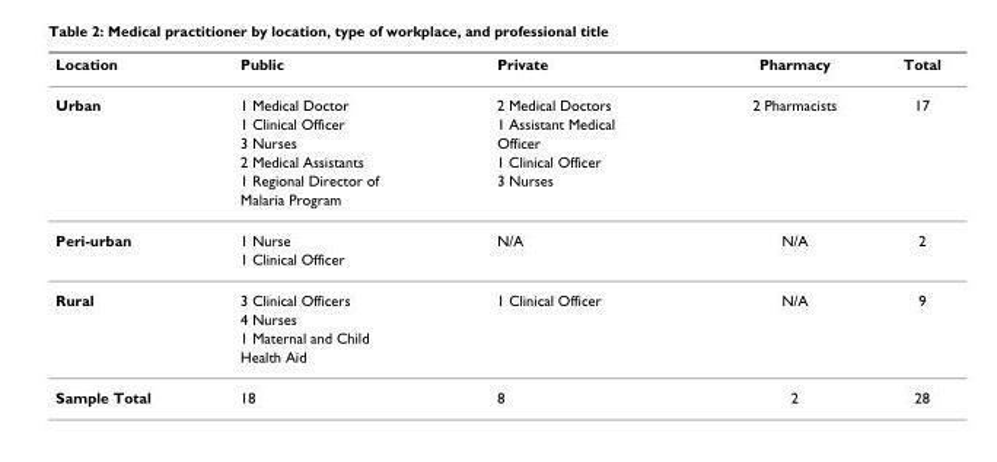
<table><thead><tr><td>Location</td><td>Public</td><td>Private</td><td>Pharmacy</td><td>Total</td></tr></thead><tbody><tr><td rowspan="6">Urban</td><td>1 Medical Doctor</td><td>2 Medical Doctors</td><td>2 Pharmacists</td><td>17</td></tr><tr><td>1 Clinical Officer</td><td>1 Assistant Medical</td><td></td><td></td></tr><tr><td>3 Nurses</td><td>Officer</td><td></td><td></td></tr><tr><td>2 Medical Assistants</td><td>1 Clinical Officer</td><td></td><td></td></tr><tr><td>1 Regional Director of</td><td>3 Nurses</td><td></td><td></td></tr><tr><td>Malaria Program</td><td></td><td></td><td></td></tr><tr><td rowspan="2">Peri-urban</td><td>1 Nurse</td><td>N/A</td><td>N/A</td><td>2</td></tr><tr><td>1 Clinical Officer</td><td></td><td></td><td></td></tr><tr><td rowspan="4">Rural</td><td>3 Clinical Officers</td><td>1 Clinical Officer</td><td>N/A</td><td>9</td></tr><tr><td>4 Nurses</td><td></td><td></td><td></td></tr><tr><td>1 Maternal and Child</td><td></td><td></td><td></td></tr><tr><td>Health Aid</td><td></td><td></td><td></td></tr><tr><td>Sample Total</td><td>18</td><td>8</td><td>2</td><td>28</td></tr></tbody></table>